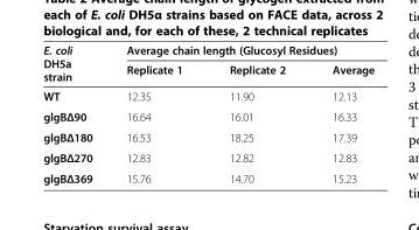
<table><thead><tr><td rowspan="2">E. coli DH5a strain</td><td colspan="3">Average chain length (Glucosyl Residues)</td></tr><tr><td>Replicate 1</td><td>Replicate 2</td><td>Average</td></tr></thead><tbody><tr><td>WT</td><td>12.35</td><td>11.90</td><td>12.13</td></tr><tr><td>glgBΔ90</td><td>16.64</td><td>16.01</td><td>16.33</td></tr><tr><td>glgBΔ180</td><td>16.53</td><td>18.25</td><td>17.39</td></tr><tr><td>glgBΔ270</td><td>12.83</td><td>12.82</td><td>12.83</td></tr><tr><td>glgBΔ369</td><td>15.76</td><td>14.70</td><td>15.23</td></tr></tbody></table>